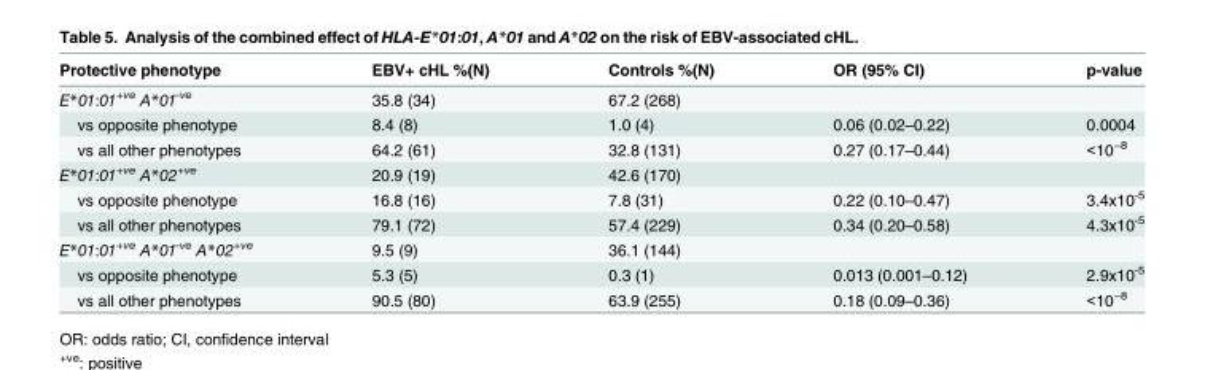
<table><thead><tr><td>Protective phenotype</td><td>EBV+ cHL %(N)</td><td>Controls %(N)</td><td>OR (95% CI)</td><td>p-value</td></tr></thead><tbody><tr><td>E*01:01<sup>+ve</sup> A*01<sup>-ve</sup></td><td>35.8 (34)</td><td>67.2 (268)</td><td></td><td></td></tr><tr><td>vs opposite phenotype</td><td>8.4 (8)</td><td>1.0 (4)</td><td>0.06 (0.02–0.22)</td><td>0.0004</td></tr><tr><td>vs all other phenotypes</td><td>64.2 (61)</td><td>32.8 (131)</td><td>0.27 (0.17–0.44)</td><td>&lt;10<sup>−8</sup></td></tr><tr><td>E*01:01<sup>+ve</sup> A*02<sup>+ve</sup></td><td>20.9 (19)</td><td>42.6 (170)</td><td></td><td></td></tr><tr><td>vs opposite phenotype</td><td>16.8 (16)</td><td>7.8 (31)</td><td>0.22 (0.10–0.47)</td><td>3.4x10<sup>-5</sup></td></tr><tr><td>vs all other phenotypes</td><td>79.1 (72)</td><td>57.4 (229)</td><td>0.34 (0.20–0.58)</td><td>4.3x10<sup>-5</sup></td></tr><tr><td>E*01:01<sup>+ve</sup> A*01<sup>-ve</sup> A*02<sup>+ve</sup></td><td>9.5 (9)</td><td>36.1 (144)</td><td></td><td></td></tr><tr><td>vs opposite phenotype</td><td>5.3 (5)</td><td>0.3 (1)</td><td>0.013 (0.001–0.12)</td><td>2.9x10<sup>-5</sup></td></tr><tr><td>vs all other phenotypes</td><td>90.5 (80)</td><td>63.9 (255)</td><td>0.18 (0.09–0.36)</td><td>&lt;10<sup>−8</sup></td></tr></tbody></table>